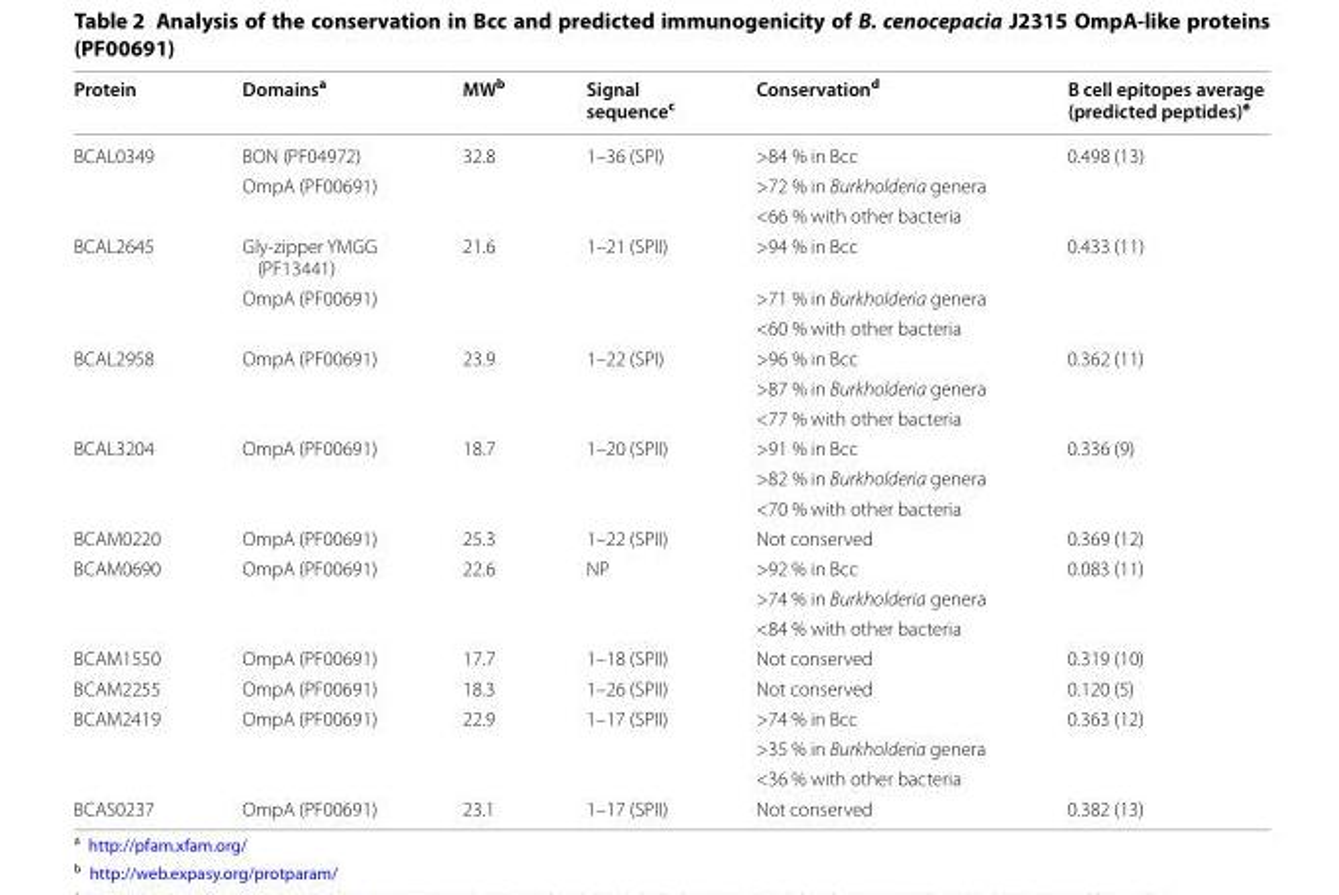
<table><thead><tr><td>Protein</td><td>Domains<sup>a</sup></td><td>MW<sup>b</sup></td><td>Signal sequence<sup>c</sup></td><td>Conservation<sup>d</sup></td><td>B cell epitopes average (predicted peptides)<sup>e</sup></td></tr></thead><tbody><tr><td rowspan="3">BCAL0349</td><td>BON (PF04972)</td><td rowspan="3">32.8</td><td rowspan="3">1–36 (SPI)</td><td>&gt;84 % in Bcc</td><td rowspan="3">0.498 (13)</td></tr><tr><td rowspan="2">OmpA (PF00691)</td><td>&gt;72 % in Burkholderia genera</td></tr><tr><td>&lt;66 % with other bacteria</td></tr><tr><td rowspan="3">BCAL2645</td><td>Gly‑zipper YMGG (PF13441)</td><td rowspan="3">21.6</td><td rowspan="3">1–21 (SPII)</td><td>&gt;94 % in Bcc</td><td rowspan="3">0.433 (11)</td></tr><tr><td rowspan="2">OmpA (PF00691)</td><td>&gt;71 % in Burkholderia genera</td></tr><tr><td>&lt;60 % with other bacteria</td></tr><tr><td rowspan="3">BCAL2958</td><td rowspan="3">OmpA (PF00691)</td><td rowspan="3">23.9</td><td rowspan="3">1–22 (SPI)</td><td>&gt;96 % in Bcc</td><td rowspan="3">0.362 (11)</td></tr><tr><td>&gt;87 % in Burkholderia genera</td></tr><tr><td>&lt;77 % with other bacteria</td></tr><tr><td rowspan="3">BCAL3204</td><td rowspan="3">OmpA (PF00691)</td><td rowspan="3">18.7</td><td rowspan="3">1–20 (SPII)</td><td>&gt;91 % in Bcc</td><td rowspan="3">0.336 (9)</td></tr><tr><td>&gt;82 % in Burkholderia genera</td></tr><tr><td>&lt;70 % with other bacteria</td></tr><tr><td>BCAM0220</td><td>OmpA (PF00691)</td><td>25.3</td><td>1–22 (SPII)</td><td>Not conserved</td><td>0.369 (12)</td></tr><tr><td rowspan="3">BCAM0690</td><td rowspan="3">OmpA (PF00691)</td><td rowspan="3">22.6</td><td rowspan="3">NP</td><td>&gt;92 % in Bcc</td><td rowspan="3">0.083 (11)</td></tr><tr><td>&gt;74 % in Burkholderia genera</td></tr><tr><td>&lt;84 % with other bacteria</td></tr><tr><td>BCAM1550</td><td>OmpA (PF00691)</td><td>17.7</td><td>1–18 (SPII)</td><td>Not conserved</td><td>0.319 (10)</td></tr><tr><td>BCAM2255</td><td>OmpA (PF00691)</td><td>18.3</td><td>1–26 (SPII)</td><td>Not conserved</td><td>0.120 (5)</td></tr><tr><td rowspan="3">BCAM2419</td><td rowspan="3">OmpA (PF00691)</td><td rowspan="3">22.9</td><td rowspan="3">1–17 (SPII)</td><td>&gt;74 % in Bcc</td><td rowspan="3">0.363 (12)</td></tr><tr><td>&gt;35 % in Burkholderia genera</td></tr><tr><td>&lt;36 % with other bacteria</td></tr><tr><td>BCAS0237</td><td>OmpA (PF00691)</td><td>23.1</td><td>1–17 (SPII)</td><td>Not conserved</td><td>0.382 (13)</td></tr></tbody></table>